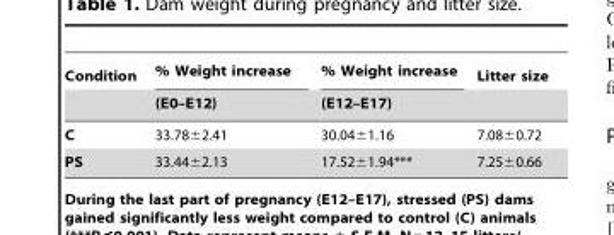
<table><thead><tr><td rowspan="2">Condition</td><td rowspan="2">% Weight increase (E0–E12)</td><td rowspan="2">% Weight increase (E12–E17)</td><td rowspan="2">Litter size</td></tr><tr></tr></thead><tbody><tr><td>C</td><td>33.78±2.41</td><td>30.04±1.16</td><td>7.08±0.72</td></tr><tr><td>PS</td><td>33.44±2.13</td><td>17.52±1.94***</td><td>7.25±0.66</td></tr></tbody></table>